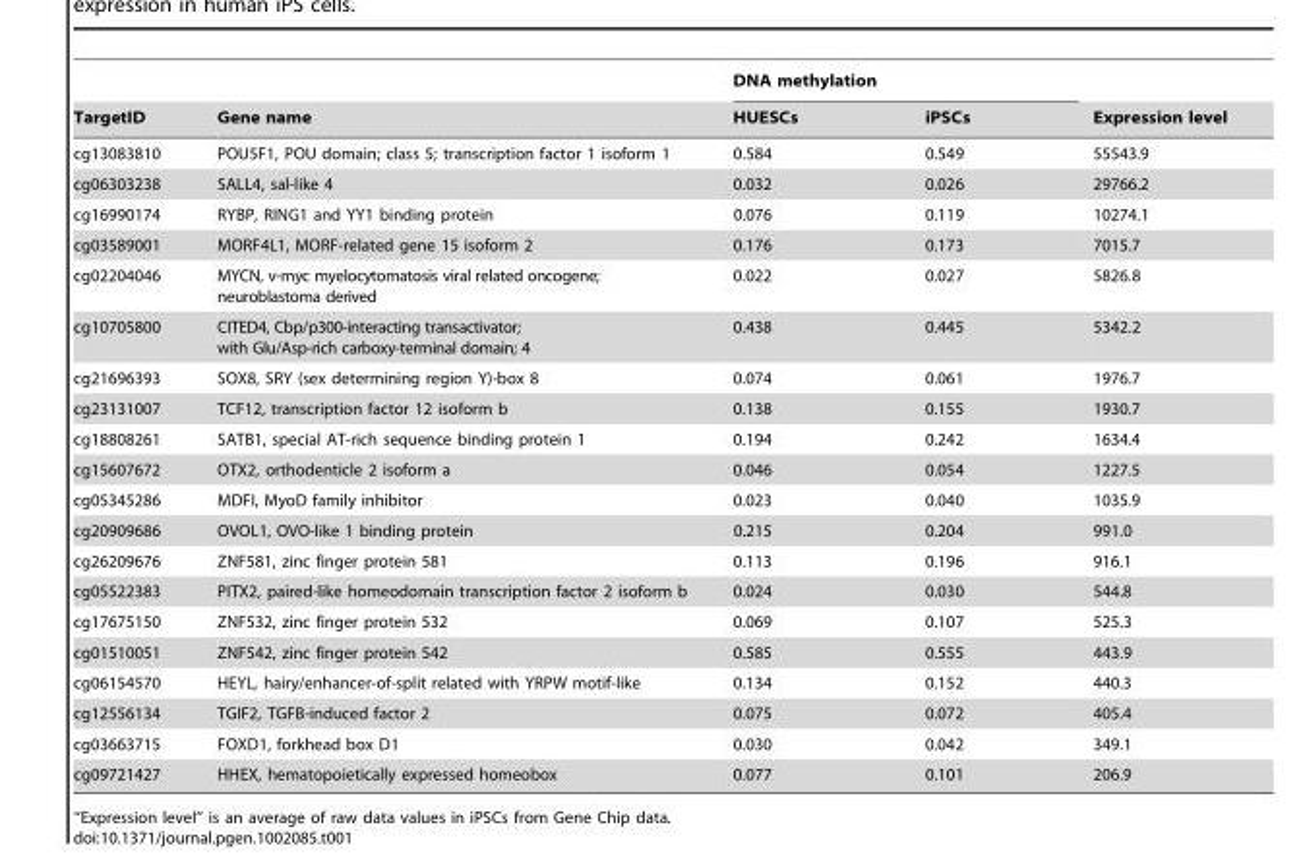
<table><thead><tr><td rowspan="2">TargetID</td><td rowspan="2">Gene name</td><td colspan="2">DNA methylation</td><td rowspan="2">Expression level</td></tr><tr><td>HUESCs</td><td>iPSCs</td></tr></thead><tbody><tr><td>cg13083810</td><td>POU5F1, POU domain; class 5; transcription factor 1 isoform 1</td><td>0.584</td><td>0.549</td><td>55543.9</td></tr><tr><td>cg06303238</td><td>SALL4, sal-like 4</td><td>0.032</td><td>0.026</td><td>29766.2</td></tr><tr><td>cg16990174</td><td>RYBP, RING1 and YY1 binding protein</td><td>0.076</td><td>0.119</td><td>10274.1</td></tr><tr><td>cg03589001</td><td>MORF4L1, MORF-related gene 15 isoform 2</td><td>0.176</td><td>0.173</td><td>7015.7</td></tr><tr><td>cg02204046</td><td>MYCN, v-myc myelocytomatosis viral related oncogene; neuroblastoma derived</td><td>0.022</td><td>0.027</td><td>5826.8</td></tr><tr><td>cg10705800</td><td>CITED4, Cbp/p300-interacting transactivator; with Glu/Asp-rich carboxy-terminal domain; 4</td><td>0.438</td><td>0.445</td><td>5342.2</td></tr><tr><td>cg21696393</td><td>SOX8, SRY (sex determining region Y)-box 8</td><td>0.074</td><td>0.061</td><td>1976.7</td></tr><tr><td>cg23131007</td><td>TCF12, transcription factor 12 isoform b</td><td>0.138</td><td>0.155</td><td>1930.7</td></tr><tr><td>cg18808261</td><td>SATB1, special AT-rich sequence binding protein 1</td><td>0.194</td><td>0.242</td><td>1634.4</td></tr><tr><td>cg15607672</td><td>OTX2, orthodenticle 2 isoform a</td><td>0.046</td><td>0.054</td><td>1227.5</td></tr><tr><td>cg05345286</td><td>MDFI, MyoD family inhibitor</td><td>0.023</td><td>0.040</td><td>1035.9</td></tr><tr><td>cg20909686</td><td>OVOL1, OVO-like 1 binding protein</td><td>0.215</td><td>0.204</td><td>991.0</td></tr><tr><td>cg26209676</td><td>ZNF581, zinc finger protein 581</td><td>0.113</td><td>0.196</td><td>916.1</td></tr><tr><td>cg05522383</td><td>PITX2, paired-like homeodomain transcription factor 2 isoform b</td><td>0.024</td><td>0.030</td><td>544.8</td></tr><tr><td>cg17675150</td><td>ZNF532, zinc finger protein 532</td><td>0.069</td><td>0.107</td><td>525.3</td></tr><tr><td>cg01510051</td><td>ZNF542, zinc finger protein 542</td><td>0.585</td><td>0.555</td><td>443.9</td></tr><tr><td>cg06154570</td><td>HEYL, hairy/enhancer-of-split related with YRPW motif-like</td><td>0.134</td><td>0.152</td><td>440.3</td></tr><tr><td>cg12556134</td><td>TGIF2, TGFB-induced factor 2</td><td>0.075</td><td>0.072</td><td>405.4</td></tr><tr><td>cg03663715</td><td>FOXD1, forkhead box D1</td><td>0.030</td><td>0.042</td><td>349.1</td></tr><tr><td>cg09721427</td><td>HHEX, hematopoietically expressed homeobox</td><td>0.077</td><td>0.101</td><td>206.9</td></tr></tbody></table>